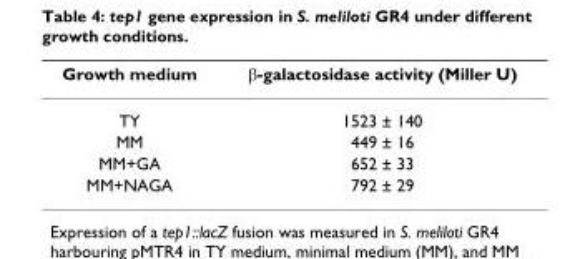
<table><thead><tr><td>Growth medium</td><td>β-galactosidase activity (Miller U)</td></tr></thead><tbody><tr><td>TY</td><td>1523 ± 140</td></tr><tr><td>MM</td><td>449 ± 16</td></tr><tr><td>MM+GA</td><td>652 ± 33</td></tr><tr><td>MM+NAGA</td><td>792 ± 29</td></tr></tbody></table>